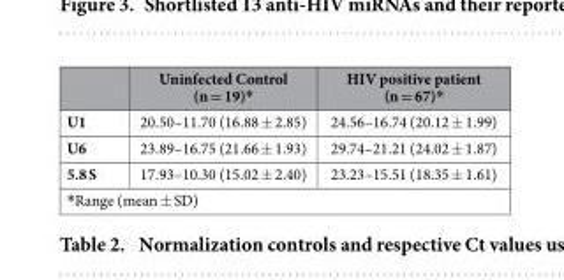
<table><thead><tr><td></td><td>Uninfected Control (n = 19)*</td><td>HIV positive patient (n = 67)*</td></tr></thead><tbody><tr><td>U1</td><td>20.50–11.70 (16.88 ± 2.85)</td><td>24.56–16.74 (20.12 ± 1.99)</td></tr><tr><td>U6</td><td>23.89–16.75 (21.66 ± 1.93)</td><td>29.74–21.21 (24.02 ± 1.87)</td></tr><tr><td>5.8 S</td><td>17.93–10.30 (15.02 ± 2.40)</td><td>23.23–15.51 (18.35 ± 1.61)</td></tr><tr><td colspan="3">*Range (mean ± SD)</td></tr></tbody></table>